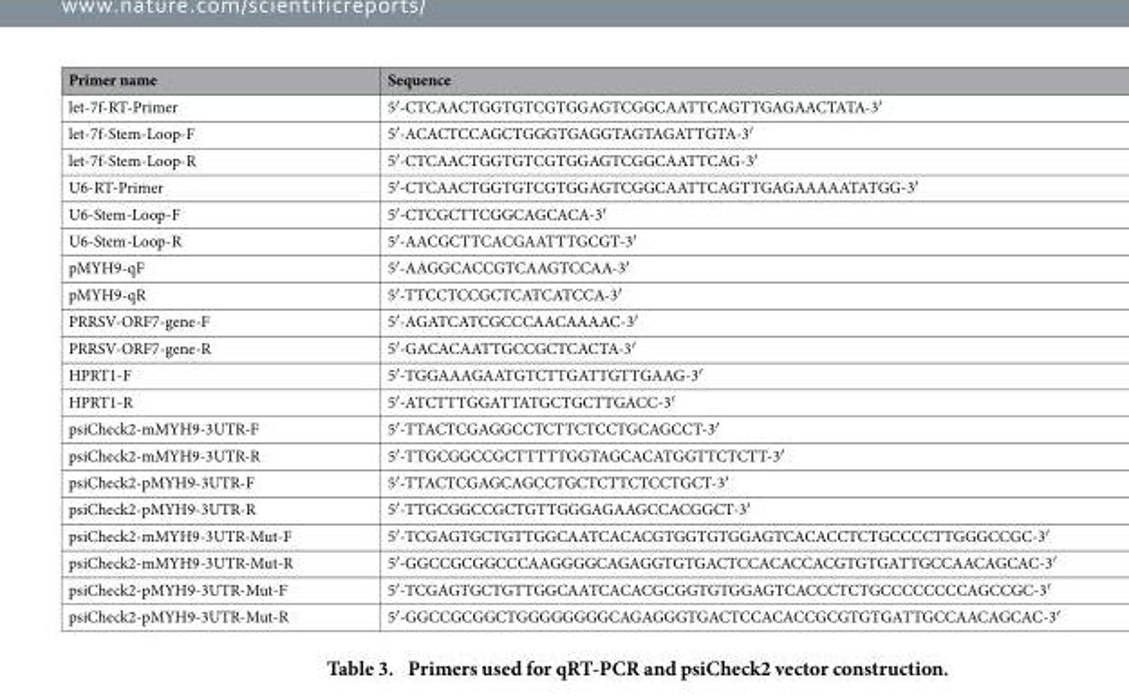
<table><thead><tr><td>Primer name</td><td>Sequence</td></tr></thead><tbody><tr><td>let-7f-RT-Primer</td><td>5′ -CTCAACTGGTGTCGTGGAGTCGGCAATTCAGTTGAGAACTATA-3′</td></tr><tr><td>let-7f-Stem-Loop-F</td><td>5′ -ACACTCCAGCTGGGTGAGGTAGTAGATTGTA-3′</td></tr><tr><td>let-7f-Stem-Loop-R</td><td>5′ -CTCAACTGGTGTCGTGGAGTCGGCAATTCAG-3′</td></tr><tr><td>U6-RT-Primer</td><td>5′ -CTCAACTGGTGTCGTGGAGTCGGCAATTCAGTTGAGAAAAATATGG-3′</td></tr><tr><td>U6-Stem-Loop-F</td><td>5′ -CTCGCTTCGGCAGCACA-3′</td></tr><tr><td>U6-Stem-Loop-R</td><td>5′ -AACGCTTCACGAATTTGCGT-3′</td></tr><tr><td>pMYH9-qF</td><td>5′ -AAGGCACCGTCAAGTCCAA-3′</td></tr><tr><td>pMYH9-qR</td><td>5′ -TTCCTCCGCTCATCATCCA-3′</td></tr><tr><td>PRRSV-ORF7-gene-F</td><td>5′ -AGATCATCGCCCAACAAAAC-3′</td></tr><tr><td>PRRSV-ORF7-gene-R</td><td>5′ -GACACAATTGCCGCTCACTA-3′</td></tr><tr><td>HPRT1-F</td><td>5′ -TGGAAAGAATGTCTTGATTGTTGAAG-3′</td></tr><tr><td>HPRT1-R</td><td>5′ -ATCTTTGGATTATGCTGCTTGACC-3′</td></tr><tr><td>psiCheck2-mMYH9-3UTR-F</td><td>5′ -TTACTCGAGGCCTCTTCTCCTGCAGCCT-3′</td></tr><tr><td>psiCheck2-mMYH9-3UTR-R</td><td>5′ -TTGCGGCCGCTTTTTGGTAGCACATGGTTCTCTT-3′</td></tr><tr><td>psiCheck2-pMYH9-3UTR-F</td><td>5′ -TTACTCGAGCAGCCTGCTCTTCTCCTGCT-3′</td></tr><tr><td>psiCheck2-pMYH9-3UTR-R</td><td>5′ -TTGCGGCCGCTGTTGGGAGAAGCCACGGCT-3′</td></tr><tr><td>psiCheck2-mMYH9-3UTR-Mut-F</td><td>5′ -TCGAGTGCTGTTGGCAATCACACGTGGTGTGGAGTCACACCTCTGCCCCTTGGGCCGC-3′</td></tr><tr><td>psiCheck2-mMYH9-3UTR-Mut-R</td><td>5′ -GGCCGCGGCCCAAGGGGCAGAGGTGTGACTCCACACCACGTGTGATTGCCAACAGCAC-3′</td></tr><tr><td>psiCheck2-pMYH9-3UTR-Mut-F</td><td>5′ -TCGAGTGCTGTTGGCAATCACACGCGGTGTGGAGTCACCCTCTGCCCCCCCCAGCCGC-3′</td></tr><tr><td>psiCheck2-pMYH9-3UTR-Mut-R</td><td>5′ -GGCCGCGGCTGGGGGGGGCAGAGGGTGACTCCACACCGCGTGTGATTGCCAACAGCAC-3′</td></tr></tbody></table>